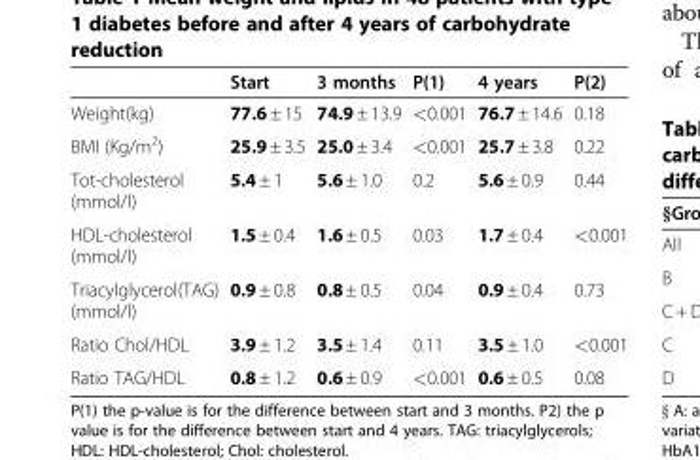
<table><thead><tr><td></td><td>Start</td><td>3 months</td><td>P(1)</td><td>4 years</td><td>P(2)</td></tr></thead><tbody><tr><td>Weight(kg)</td><td>77.6 ± 15</td><td>74.9 ± 13.9</td><td>&lt;0.001</td><td>76.7 ± 14.6</td><td>0.18</td></tr><tr><td>BMI (Kg/m<sup>2</sup>)</td><td>25.9 ± 3.5</td><td>25.0 ± 3.4</td><td>&lt;0.001</td><td>25.7 ± 3.8</td><td>0.22</td></tr><tr><td>Tot-cholesterol (mmol/l)</td><td>5.4 ± 1</td><td>5.6 ± 1.0</td><td>0.2</td><td>5.6 ± 0.9</td><td>0.44</td></tr><tr><td>HDL-cholesterol (mmol/l)</td><td>1.5 ± 0.4</td><td>1.6 ± 0.5</td><td>0.03</td><td>1.7 ± 0.4</td><td>&lt;0.001</td></tr><tr><td>Triacylglycerol(TAG) (mmol/l)</td><td>0.9 ± 0.8</td><td>0.8 ± 0.5</td><td>0.04</td><td>0.9 ± 0.4</td><td>0.73</td></tr><tr><td>Ratio Chol/HDL</td><td>3.9 ± 1.2</td><td>3.5 ± 1.4</td><td>0.11</td><td>3.5 ± 1.0</td><td>&lt;0.001</td></tr><tr><td>Ratio TAG/HDL</td><td>0.8 ± 1.2</td><td>0.6 ± 0.9</td><td>&lt;0.001</td><td>0.6 ± 0.5</td><td>0.08</td></tr></tbody></table>